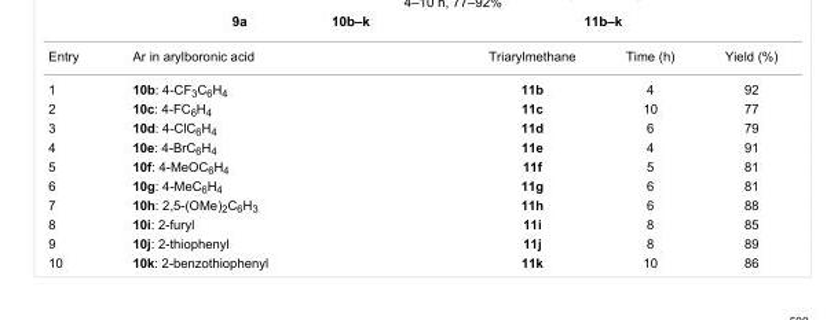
<table><tbody><tr><td>Entry</td><td>Ar in arylboronic acid</td><td>Triarylmethane</td><td>Time (h)</td><td>Yield (%)</td></tr><tr><td>1</td><td>10b: 4-CF<sub>3</sub>C<sub>6</sub>H<sub>4</sub></td><td>11b</td><td>4</td><td>92</td></tr><tr><td>2</td><td>10c: 4-FC<sub>6</sub>H<sub>4</sub></td><td>11c</td><td>10</td><td>77</td></tr><tr><td>3</td><td>10d: 4-ClC<sub>6</sub>H<sub>4</sub></td><td>11d</td><td>6</td><td>79</td></tr><tr><td>4</td><td>10e: 4-BrC<sub>6</sub>H<sub>4</sub></td><td>11e</td><td>4</td><td>91</td></tr><tr><td>5</td><td>10f: 4-MeOC<sub>6</sub>H<sub>4</sub></td><td>11f</td><td>5</td><td>81</td></tr><tr><td>6</td><td>10g: 4-MeC<sub>6</sub>H<sub>4</sub></td><td>11g</td><td>6</td><td>81</td></tr><tr><td>7</td><td>10h: 2,5-(OMe)<sub>2</sub>C<sub>6</sub>H<sub>3</sub></td><td>11h</td><td>6</td><td>88</td></tr><tr><td>8</td><td>10i: 2-furyl</td><td>11i</td><td>8</td><td>85</td></tr><tr><td>9</td><td>10j: 2-thiophenyl</td><td>11j</td><td>8</td><td>89</td></tr><tr><td>10</td><td>10k: 2-benzothiophenyl</td><td>11k</td><td>10</td><td>86</td></tr></tbody></table>